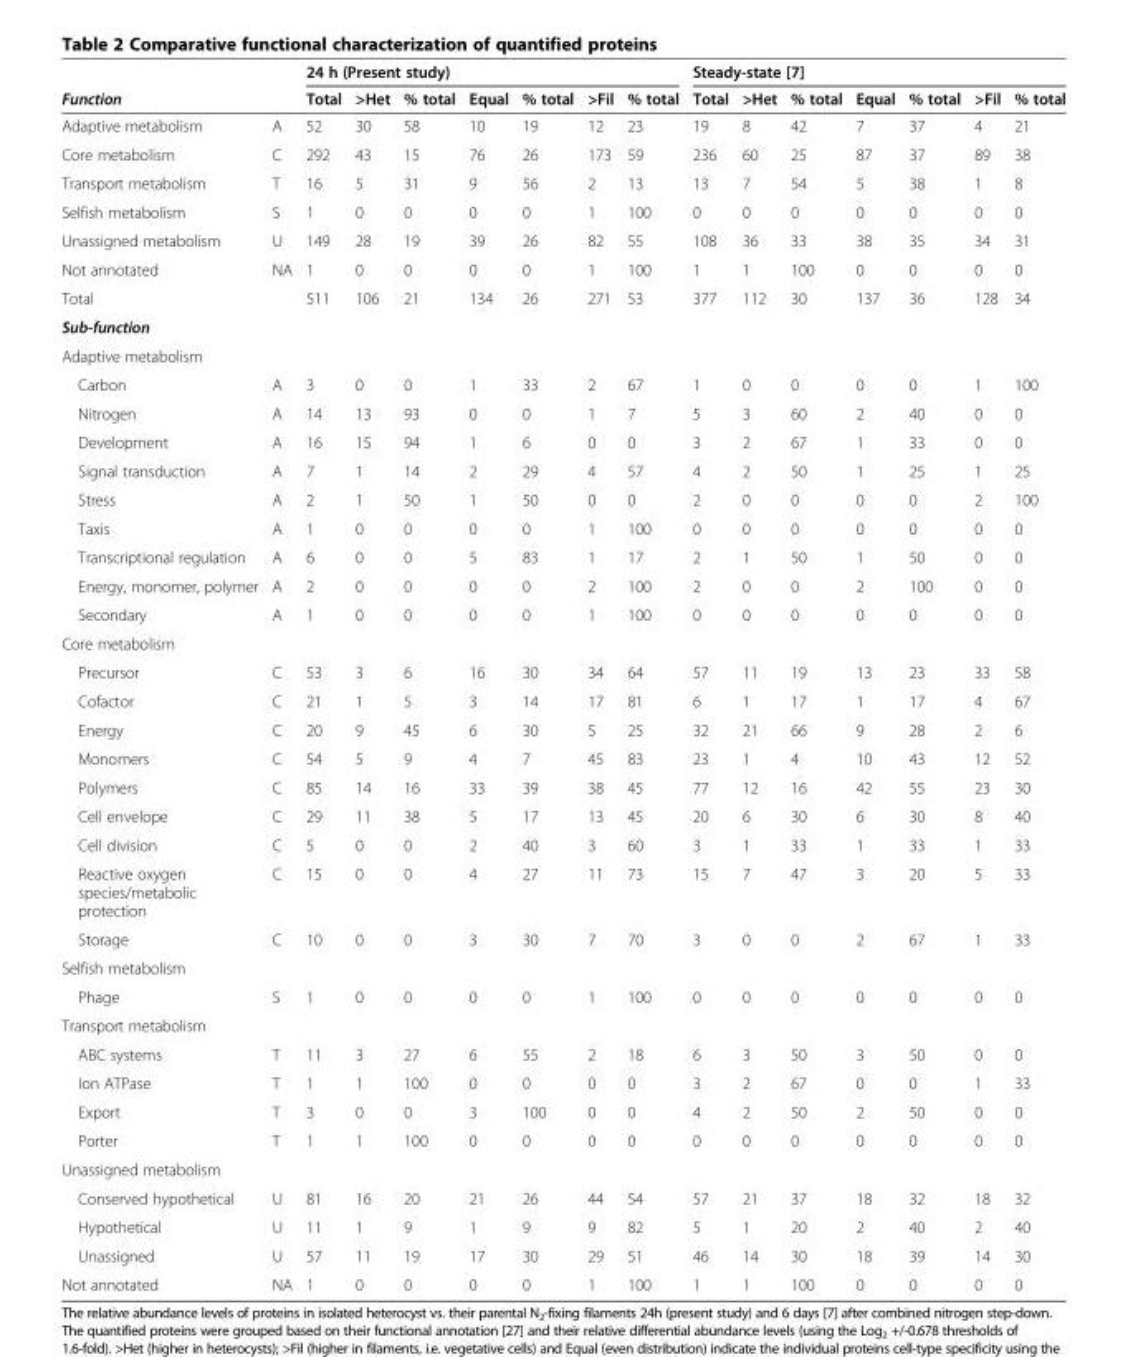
<table><thead><tr><td rowspan="2">Function</td><td rowspan="2"></td><td colspan="7">24 h (Present study)</td><td colspan="7">Steady-state [7]</td></tr><tr><td>Total</td><td>&gt;Het</td><td>% total</td><td>Equal</td><td>% total</td><td>&gt;Fil</td><td>% total</td><td>Total</td><td>&gt;Het</td><td>% total</td><td>Equal</td><td>% total</td><td>&gt;Fil</td><td>% total</td></tr></thead><tbody><tr><td>Adaptive metabolism</td><td>A</td><td>52</td><td>30</td><td>58</td><td>10</td><td>19</td><td>12</td><td>23</td><td>19</td><td>8</td><td>42</td><td>7</td><td>37</td><td>4</td><td>21</td></tr><tr><td>Core metabolism</td><td>C</td><td>292</td><td>43</td><td>15</td><td>76</td><td>26</td><td>173</td><td>59</td><td>236</td><td>60</td><td>25</td><td>87</td><td>37</td><td>89</td><td>38</td></tr><tr><td>Transport metabolism</td><td>T</td><td>16</td><td>5</td><td>31</td><td>9</td><td>56</td><td>2</td><td>13</td><td>13</td><td>7</td><td>54</td><td>5</td><td>38</td><td>1</td><td>8</td></tr><tr><td>Selfish metabolism</td><td>S</td><td>1</td><td>0</td><td>0</td><td>0</td><td>0</td><td>1</td><td>100</td><td>0</td><td>0</td><td>0</td><td>0</td><td>0</td><td>0</td><td>0</td></tr><tr><td>Unassigned metabolism</td><td>U</td><td>149</td><td>28</td><td>19</td><td>39</td><td>26</td><td>82</td><td>55</td><td>108</td><td>36</td><td>33</td><td>38</td><td>35</td><td>34</td><td>31</td></tr><tr><td>Not annotated</td><td>NA</td><td>1</td><td>0</td><td>0</td><td>0</td><td>0</td><td>1</td><td>100</td><td>1</td><td>1</td><td>100</td><td>0</td><td>0</td><td>0</td><td>0</td></tr><tr><td>Total</td><td></td><td>511</td><td>106</td><td>21</td><td>134</td><td>26</td><td>271</td><td>53</td><td>377</td><td>112</td><td>30</td><td>137</td><td>36</td><td>128</td><td>34</td></tr><tr><td colspan="16">Sub-function</td></tr><tr><td colspan="16">Adaptive metabolism</td></tr><tr><td>Carbon</td><td>A</td><td>3</td><td>0</td><td>0</td><td>1</td><td>33</td><td>2</td><td>67</td><td>1</td><td>0</td><td>0</td><td>0</td><td>0</td><td>1</td><td>100</td></tr><tr><td>Nitrogen</td><td>A</td><td>14</td><td>13</td><td>93</td><td>0</td><td>0</td><td>1</td><td>7</td><td>5</td><td>3</td><td>60</td><td>2</td><td>40</td><td>0</td><td>0</td></tr><tr><td>Development</td><td>A</td><td>16</td><td>15</td><td>94</td><td>1</td><td>6</td><td>0</td><td>0</td><td>3</td><td>2</td><td>67</td><td>1</td><td>33</td><td>0</td><td>0</td></tr><tr><td>Signal transduction</td><td>A</td><td>7</td><td>1</td><td>14</td><td>2</td><td>29</td><td>4</td><td>57</td><td>4</td><td>2</td><td>50</td><td>1</td><td>25</td><td>1</td><td>25</td></tr><tr><td>Stress</td><td>A</td><td>2</td><td>1</td><td>50</td><td>1</td><td>50</td><td>0</td><td>0</td><td>2</td><td>0</td><td>0</td><td>0</td><td>0</td><td>2</td><td>100</td></tr><tr><td>Taxis</td><td>A</td><td>1</td><td>0</td><td>0</td><td>0</td><td>0</td><td>1</td><td>100</td><td>0</td><td>0</td><td>0</td><td>0</td><td>0</td><td>0</td><td>0</td></tr><tr><td>Transcriptional regulation</td><td>A</td><td>6</td><td>0</td><td>0</td><td>5</td><td>83</td><td>1</td><td>17</td><td>2</td><td>1</td><td>50</td><td>1</td><td>50</td><td>0</td><td>0</td></tr><tr><td>Energy, monomer, polymer</td><td>A</td><td>2</td><td>0</td><td>0</td><td>0</td><td>0</td><td>2</td><td>100</td><td>2</td><td>0</td><td>0</td><td>2</td><td>100</td><td>0</td><td>0</td></tr><tr><td>Secondary</td><td>A</td><td>1</td><td>0</td><td>0</td><td>0</td><td>0</td><td>1</td><td>100</td><td>0</td><td>0</td><td>0</td><td>0</td><td>0</td><td>0</td><td>0</td></tr><tr><td colspan="16">Core metabolism</td></tr><tr><td>Precursor</td><td>C</td><td>53</td><td>3</td><td>6</td><td>16</td><td>30</td><td>34</td><td>64</td><td>57</td><td>11</td><td>19</td><td>13</td><td>23</td><td>33</td><td>58</td></tr><tr><td>Cofactor</td><td>C</td><td>21</td><td>1</td><td>5</td><td>3</td><td>14</td><td>17</td><td>81</td><td>6</td><td>1</td><td>17</td><td>1</td><td>17</td><td>4</td><td>67</td></tr><tr><td>Energy</td><td>C</td><td>20</td><td>9</td><td>45</td><td>6</td><td>30</td><td>5</td><td>25</td><td>32</td><td>21</td><td>66</td><td>9</td><td>28</td><td>2</td><td>6</td></tr><tr><td>Monomers</td><td>C</td><td>54</td><td>5</td><td>9</td><td>4</td><td>7</td><td>45</td><td>83</td><td>23</td><td>1</td><td>4</td><td>10</td><td>43</td><td>12</td><td>52</td></tr><tr><td>Polymers</td><td>C</td><td>85</td><td>14</td><td>16</td><td>33</td><td>39</td><td>38</td><td>45</td><td>77</td><td>12</td><td>16</td><td>42</td><td>55</td><td>23</td><td>30</td></tr><tr><td>Cell envelope</td><td>C</td><td>29</td><td>11</td><td>38</td><td>5</td><td>17</td><td>13</td><td>45</td><td>20</td><td>6</td><td>30</td><td>6</td><td>30</td><td>8</td><td>40</td></tr><tr><td>Cell division</td><td>C</td><td>5</td><td>0</td><td>0</td><td>2</td><td>40</td><td>3</td><td>60</td><td>3</td><td>1</td><td>33</td><td>1</td><td>33</td><td>1</td><td>33</td></tr><tr><td>Reactive oxygen species/metabolic protection</td><td>C</td><td>15</td><td>0</td><td>0</td><td>4</td><td>27</td><td>11</td><td>73</td><td>15</td><td>7</td><td>47</td><td>3</td><td>20</td><td>5</td><td>33</td></tr><tr><td>Storage</td><td>C</td><td>10</td><td>0</td><td>0</td><td>3</td><td>30</td><td>7</td><td>70</td><td>3</td><td>0</td><td>0</td><td>2</td><td>67</td><td>1</td><td>33</td></tr><tr><td colspan="16">Selfish metabolism</td></tr><tr><td>Phage</td><td>S</td><td>1</td><td>0</td><td>0</td><td>0</td><td>0</td><td>1</td><td>100</td><td>0</td><td>0</td><td>0</td><td>0</td><td>0</td><td>0</td><td>0</td></tr><tr><td colspan="16">Transport metabolism</td></tr><tr><td>ABC systems</td><td>T</td><td>11</td><td>3</td><td>27</td><td>6</td><td>55</td><td>2</td><td>18</td><td>6</td><td>3</td><td>50</td><td>3</td><td>50</td><td>0</td><td>0</td></tr><tr><td>Ion ATPase</td><td>T</td><td>1</td><td>1</td><td>100</td><td>0</td><td>0</td><td>0</td><td>0</td><td>3</td><td>2</td><td>67</td><td>0</td><td>0</td><td>1</td><td>33</td></tr><tr><td>Export</td><td>T</td><td>3</td><td>0</td><td>0</td><td>3</td><td>100</td><td>0</td><td>0</td><td>4</td><td>2</td><td>50</td><td>2</td><td>50</td><td>0</td><td>0</td></tr><tr><td>Porter</td><td>T</td><td>1</td><td>1</td><td>100</td><td>0</td><td>0</td><td>0</td><td>0</td><td>0</td><td>0</td><td>0</td><td>0</td><td>0</td><td>0</td><td>0</td></tr><tr><td colspan="16">Unassigned metabolism</td></tr><tr><td>Conserved hypothetical</td><td>U</td><td>81</td><td>16</td><td>20</td><td>21</td><td>26</td><td>44</td><td>54</td><td>57</td><td>21</td><td>37</td><td>18</td><td>32</td><td>18</td><td>32</td></tr><tr><td>Hypothetical</td><td>U</td><td>11</td><td>1</td><td>9</td><td>1</td><td>9</td><td>9</td><td>82</td><td>5</td><td>1</td><td>20</td><td>2</td><td>40</td><td>2</td><td>40</td></tr><tr><td>Unassigned</td><td>U</td><td>57</td><td>11</td><td>19</td><td>17</td><td>30</td><td>29</td><td>51</td><td>46</td><td>14</td><td>30</td><td>18</td><td>39</td><td>14</td><td>30</td></tr><tr><td>Not annotated</td><td>NA</td><td>1</td><td>0</td><td>0</td><td>0</td><td>0</td><td>1</td><td>100</td><td>1</td><td>1</td><td>100</td><td>0</td><td>0</td><td>0</td><td>0</td></tr></tbody></table>